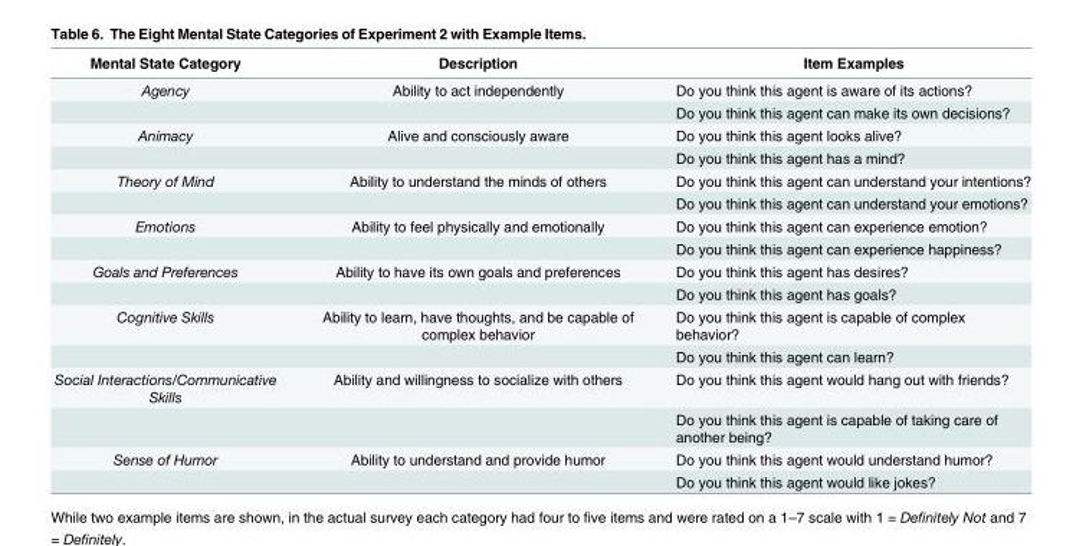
<table><thead><tr><td>Mental State Category</td><td>Description</td><td>Item Examples</td></tr></thead><tbody><tr><td rowspan="2">Agency</td><td>Ability to act independently</td><td>Do you think this agent is aware of its actions?</td></tr><tr><td></td><td>Do you think this agent can make its own decisions?</td></tr><tr><td rowspan="2">Animacy</td><td>Alive and consciously aware</td><td>Do you think this agent looks alive?</td></tr><tr><td></td><td>Do you think this agent has a mind?</td></tr><tr><td rowspan="2">Theory of Mind</td><td>Ability to understand the minds of others</td><td>Do you think this agent can understand your intentions?</td></tr><tr><td></td><td>Do you think this agent can understand your emotions?</td></tr><tr><td rowspan="2">Emotions</td><td>Ability to feel physically and emotionally</td><td>Do you think this agent can experience emotion?</td></tr><tr><td></td><td>Do you think this agent can experience happiness?</td></tr><tr><td rowspan="2">Goals and Preferences</td><td>Ability to have its own goals and preferences</td><td>Do you think this agent has desires?</td></tr><tr><td></td><td>Do you think this agent has goals?</td></tr><tr><td rowspan="2">Cognitive Skills</td><td>Ability to learn, have thoughts, and be capable of complex behavior</td><td>Do you think this agent is capable of complex behavior?</td></tr><tr><td></td><td>Do you think this agent can learn?</td></tr><tr><td rowspan="2">Social Interactions/Communicative Skills</td><td>Ability and willingness to socialize with others</td><td>Do you think this agent would hang out with friends?</td></tr><tr><td></td><td>Do you think this agent is capable of taking care of another being?</td></tr><tr><td rowspan="2">Sense of Humor</td><td>Ability to understand and provide humor</td><td>Do you think this agent would understand humor?</td></tr><tr><td></td><td>Do you think this agent would like jokes?</td></tr></tbody></table>